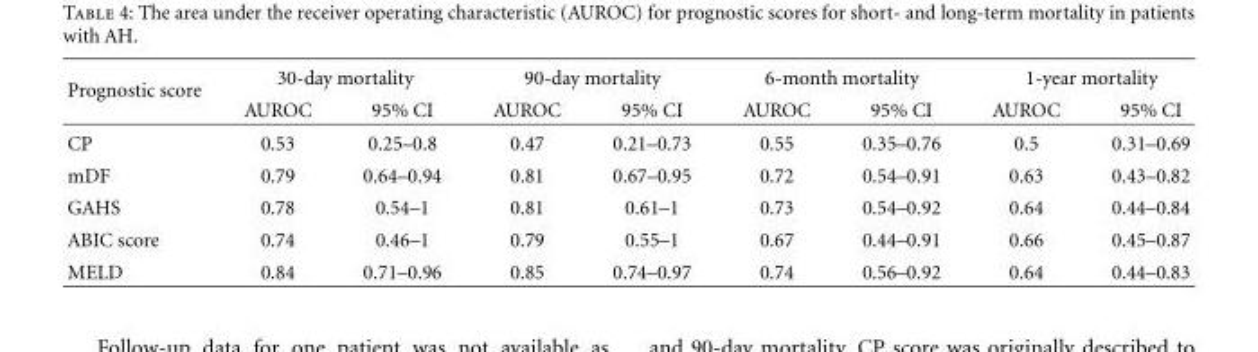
<table><thead><tr><td rowspan="2">Prognostic score</td><td colspan="2">30-day mortality</td><td colspan="2">90-day mortality</td><td colspan="2">6-month mortality</td><td colspan="2">1-year mortality</td></tr><tr><td>AUROC</td><td>95% CI</td><td>AUROC</td><td>95% CI</td><td>AUROC</td><td>95% CI</td><td>AUROC</td><td>95% CI</td></tr></thead><tbody><tr><td>CP</td><td>0.53</td><td>0.25–0.8</td><td>0.47</td><td>0.21–0.73</td><td>0.55</td><td>0.35–0.76</td><td>0.5</td><td>0.31–0.69</td></tr><tr><td>mDF</td><td>0.79</td><td>0.64–0.94</td><td>0.81</td><td>0.67–0.95</td><td>0.72</td><td>0.54–0.91</td><td>0.63</td><td>0.43–0.82</td></tr><tr><td>GAHS</td><td>0.78</td><td>0.54–1</td><td>0.81</td><td>0.61–1</td><td>0.73</td><td>0.54–0.92</td><td>0.64</td><td>0.44–0.84</td></tr><tr><td>ABIC score</td><td>0.74</td><td>0.46–1</td><td>0.79</td><td>0.55–1</td><td>0.67</td><td>0.44–0.91</td><td>0.66</td><td>0.45–0.87</td></tr><tr><td>MELD</td><td>0.84</td><td>0.71–0.96</td><td>0.85</td><td>0.74–0.97</td><td>0.74</td><td>0.56–0.92</td><td>0.64</td><td>0.44–0.83</td></tr></tbody></table>